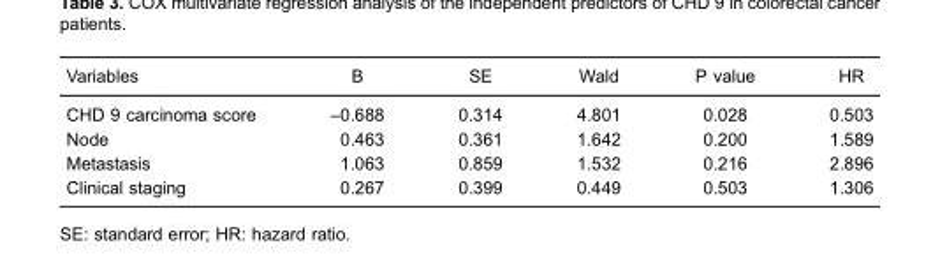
<table><thead><tr><td>Variables</td><td>B</td><td>SE</td><td>Wald</td><td>P value</td><td>HR</td></tr></thead><tbody><tr><td>CHD 9 carcinoma score</td><td>–0.688</td><td>0.314</td><td>4.801</td><td>0.028</td><td>0.503</td></tr><tr><td>Node</td><td>0.463</td><td>0.361</td><td>1.642</td><td>0.200</td><td>1.589</td></tr><tr><td>Metastasis</td><td>1.063</td><td>0.859</td><td>1.532</td><td>0.216</td><td>2.896</td></tr><tr><td>Clinical staging</td><td>0.267</td><td>0.399</td><td>0.449</td><td>0.503</td><td>1.306</td></tr></tbody></table>